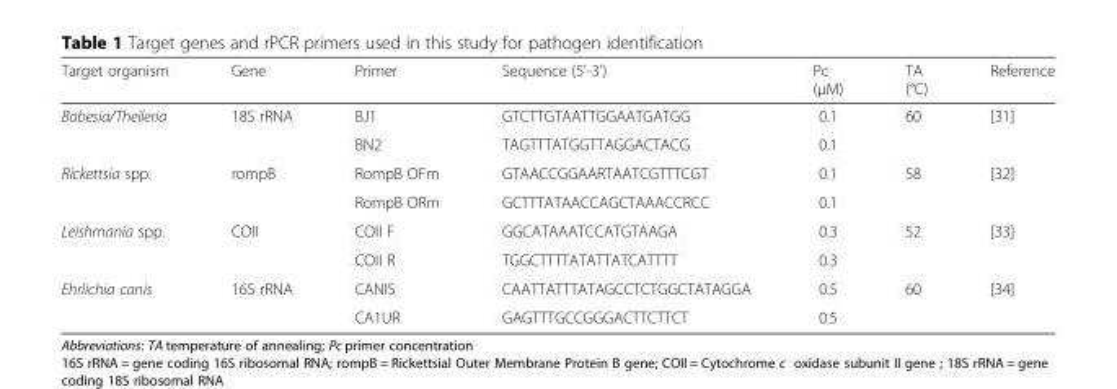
<table><thead><tr><td>Target organism</td><td>Gene</td><td>Primer</td><td>Sequence (5&#x27;-3&#x27;)</td><td>Pc (μM)</td><td>TA (°C)</td><td>Reference</td></tr></thead><tbody><tr><td rowspan="2">Babesia/Theileria</td><td>18S rRNA</td><td>BJ1</td><td>GTCTTGTAATTGGAATGATGG</td><td>0.1</td><td>60</td><td>[31]</td></tr><tr><td></td><td>BN2</td><td>TAGTTTATGGTTAGGACTACG</td><td>0.1</td><td></td><td></td></tr><tr><td rowspan="2">Rickettsia spp.</td><td>rompB</td><td>RompB OFm</td><td>GTAACCGGAARTAATCGTTTCGT</td><td>0.1</td><td>58</td><td>[32]</td></tr><tr><td></td><td>RompB ORm</td><td>GCTTTATAACCAGCTAAACCRCC</td><td>0.1</td><td></td><td></td></tr><tr><td rowspan="2">Leishmania spp.</td><td>COII</td><td>COII F</td><td>GGCATAAATCCATGTAAGA</td><td>0.3</td><td>52</td><td>[33]</td></tr><tr><td></td><td>COII R</td><td>TGGCTTTTATATTATCATTTT</td><td>0.3</td><td></td><td></td></tr><tr><td rowspan="2">Ehrlichia canis</td><td>16S rRNA</td><td>CANIS</td><td>CAATTATTTATAGCCTCTGGCTATAGGA</td><td>0.5</td><td>60</td><td>[34]</td></tr><tr><td></td><td>CA1UR</td><td>GAGTTTGCCGGGACTTCTTCT</td><td>0.5</td><td></td><td></td></tr></tbody></table>